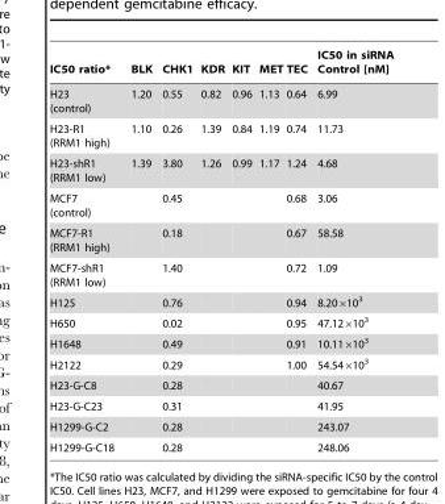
<table><thead><tr><td>IC50 ratio*</td><td>BLK</td><td>CHK1</td><td>KDR</td><td>KIT</td><td>MET</td><td>TEC</td><td>IC50 in siRNA Control [nM]</td></tr></thead><tbody><tr><td>H23 (control)</td><td>1.20</td><td>0.55</td><td>0.82</td><td>0.96</td><td>1.13</td><td>0.64</td><td>6.99</td></tr><tr><td>H23-R1 (RRM1 high)</td><td>1.10</td><td>0.26</td><td>1.39</td><td>0.84</td><td>1.19</td><td>0.74</td><td>11.73</td></tr><tr><td>H23-shR1 (RRM1 low)</td><td>1.39</td><td>3.80</td><td>1.26</td><td>0.99</td><td>1.17</td><td>1.24</td><td>4.68</td></tr><tr><td>MCF7 (control)</td><td></td><td>0.45</td><td></td><td></td><td></td><td>0.68</td><td>3.06</td></tr><tr><td>MCF7-R1 (RRM1 high)</td><td></td><td>0.18</td><td></td><td></td><td></td><td>0.67</td><td>58.58</td></tr><tr><td>MCF7-shR1 (RRM1 low)</td><td></td><td>1.40</td><td></td><td></td><td></td><td>0.72</td><td>1.09</td></tr><tr><td>H125</td><td></td><td>0.76</td><td></td><td></td><td></td><td>0.94</td><td>8.20×10<sup>3</sup></td></tr><tr><td>H650</td><td></td><td>0.02</td><td></td><td></td><td></td><td>0.95</td><td>47.12×10<sup>3</sup></td></tr><tr><td>H1648</td><td></td><td>0.49</td><td></td><td></td><td></td><td>0.91</td><td>10.11×10<sup>3</sup></td></tr><tr><td>H2122</td><td></td><td>0.29</td><td></td><td></td><td></td><td>1.00</td><td>54.54×10<sup>3</sup></td></tr><tr><td>H23-G-C8</td><td></td><td>0.28</td><td></td><td></td><td></td><td></td><td>40.67</td></tr><tr><td>H23-G-C23</td><td></td><td>0.31</td><td></td><td></td><td></td><td></td><td>41.95</td></tr><tr><td>H1299-G-C2</td><td></td><td>0.28</td><td></td><td></td><td></td><td></td><td>243.07</td></tr><tr><td>H1299-G-C18</td><td></td><td>0.28</td><td></td><td></td><td></td><td></td><td>248.06</td></tr></tbody></table>